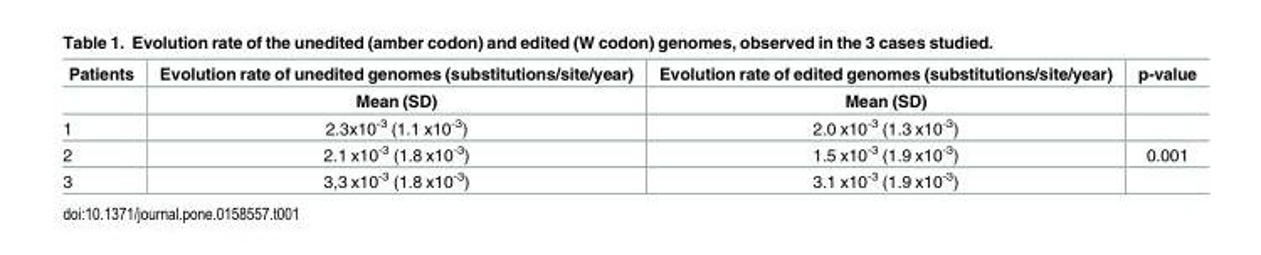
<table><thead><tr><td rowspan="2">Patients</td><td rowspan="2">Evolution rate of unedited genomes (substitutions/site/year) Mean (SD)</td><td rowspan="2">Evolution rate of edited genomes (substitutions/site/year) Mean (SD)</td><td rowspan="2">p-value</td></tr><tr></tr></thead><tbody><tr><td>1</td><td>2.3x10<sup>-3</sup> (1.1 x10<sup>-3</sup>)</td><td>2.0 x10<sup>-3</sup> (1.3 x10<sup>-3</sup>)</td><td></td></tr><tr><td>2</td><td>2.1 x10<sup>-3</sup> (1.8 x10<sup>-3</sup>)</td><td>1.5 x10<sup>-3</sup> (1.9 x10<sup>-3</sup>)</td><td>0.001</td></tr><tr><td>3</td><td>3,3 x10<sup>-3</sup> (1.8 x10<sup>-3</sup>)</td><td>3.1 x10<sup>-3</sup> (1.9 x10<sup>-3</sup>)</td><td></td></tr></tbody></table>